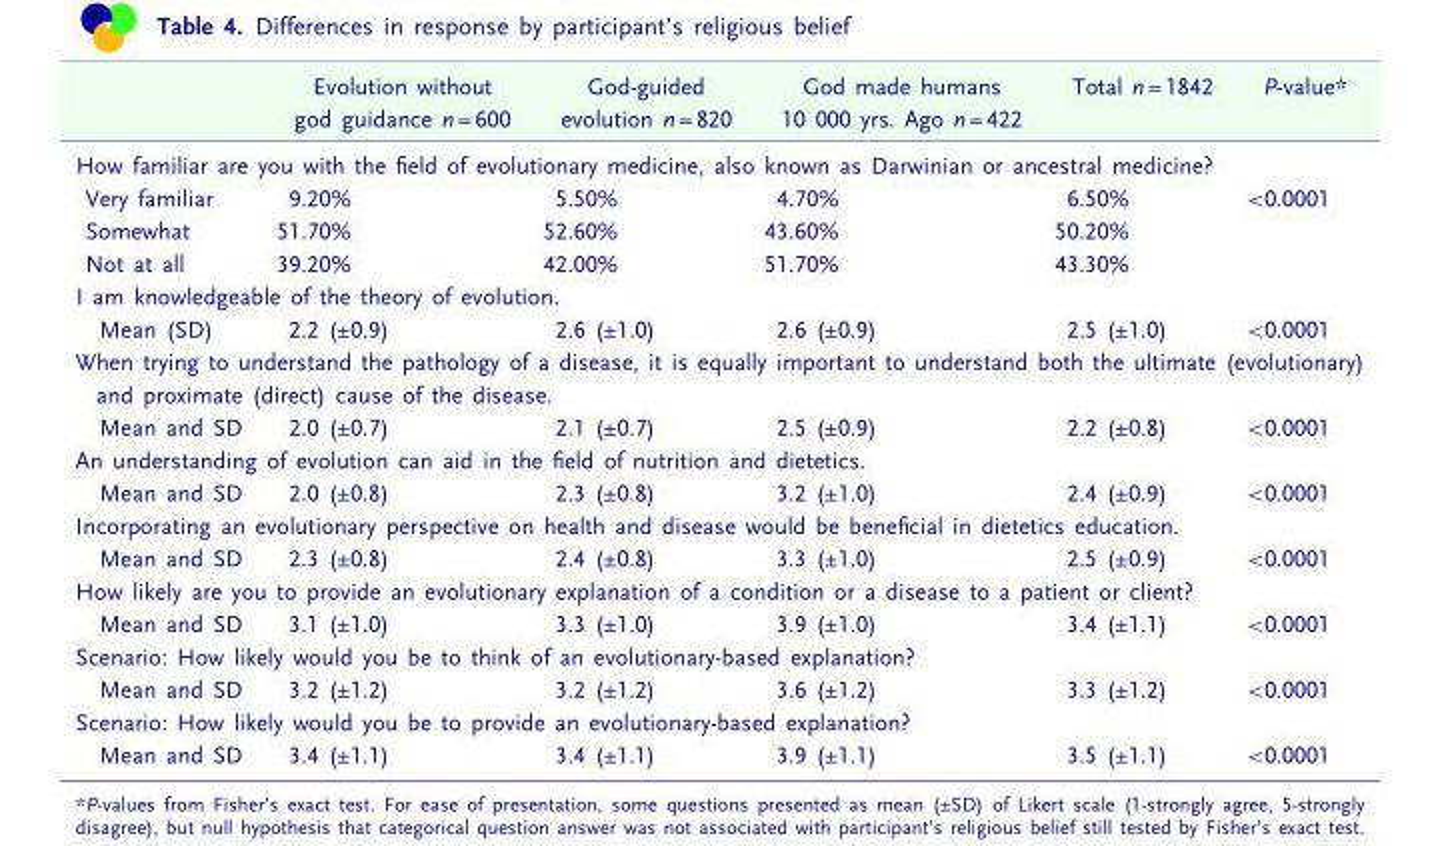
<table><thead><tr><td></td><td>Evolution without god guidance n = 600</td><td>God-guided evolution n = 820</td><td>God made humans 10 000 yrs. Ago n = 422</td><td>Total n = 1842</td><td>P-value*</td></tr></thead><tbody><tr><td colspan="6">How familiar are you with the field of evolutionary medicine, also known as Darwinian or ancestral medicine?</td></tr><tr><td>Very familiar</td><td>9.20%</td><td>5.50%</td><td>4.70%</td><td>6.50%</td><td rowspan="3">&lt;0.0001</td></tr><tr><td>Somewhat</td><td>51.70%</td><td>52.60%</td><td>43.60%</td><td>50.20%</td></tr><tr><td>Not at all</td><td>39.20%</td><td>42.00%</td><td>51.70%</td><td>43.30%</td></tr><tr><td colspan="6">I am knowledgeable of the theory of evolution.</td></tr><tr><td>Mean (SD)</td><td>2.2 (±0.9)</td><td>2.6 (±1.0)</td><td>2.6 (±0.9)</td><td>2.5 (±1.0)</td><td>&lt;0.0001</td></tr><tr><td colspan="6">When trying to understand the pathology of a disease, it is equally important to understand both the ultimate (evolutionary) and proximate (direct) cause of the disease.</td></tr><tr><td>Mean and SD</td><td>2.0 (±0.7)</td><td>2.1 (±0.7)</td><td>2.5 (±0.9)</td><td>2.2 (±0.8)</td><td>&lt;0.0001</td></tr><tr><td colspan="6">An understanding of evolution can aid in the field of nutrition and dietetics.</td></tr><tr><td>Mean and SD</td><td>2.0 (±0.8)</td><td>2.3 (±0.8)</td><td>3.2 (±1.0)</td><td>2.4 (±0.9)</td><td>&lt;0.0001</td></tr><tr><td colspan="6">Incorporating an evolutionary perspective on health and disease would be beneficial in dietetics education.</td></tr><tr><td>Mean and SD</td><td>2.3 (±0.8)</td><td>2.4 (±0.8)</td><td>3.3 (±1.0)</td><td>2.5 (±0.9)</td><td>&lt;0.0001</td></tr><tr><td colspan="6">How likely are you to provide an evolutionary explanation of a condition or a disease to a patient or client?</td></tr><tr><td>Mean and SD</td><td>3.1 (±1.0)</td><td>3.3 (±1.0)</td><td>3.9 (±1.0)</td><td>3.4 (±1.1)</td><td>&lt;0.0001</td></tr><tr><td colspan="6">Scenario: How likely would you be to think of an evolutionary-based explanation?</td></tr><tr><td>Mean and SD</td><td>3.2 (±1.2)</td><td>3.2 (±1.2)</td><td>3.6 (±1.2)</td><td>3.3 (±1.2)</td><td>&lt;0.0001</td></tr><tr><td colspan="6">Scenario: How likely would you be to provide an evolutionary-based explanation?</td></tr><tr><td>Mean and SD</td><td>3.4 (±1.1)</td><td>3.4 (±1.1)</td><td>3.9 (±1.1)</td><td>3.5 (±1.1)</td><td>&lt;0.0001</td></tr></tbody></table>